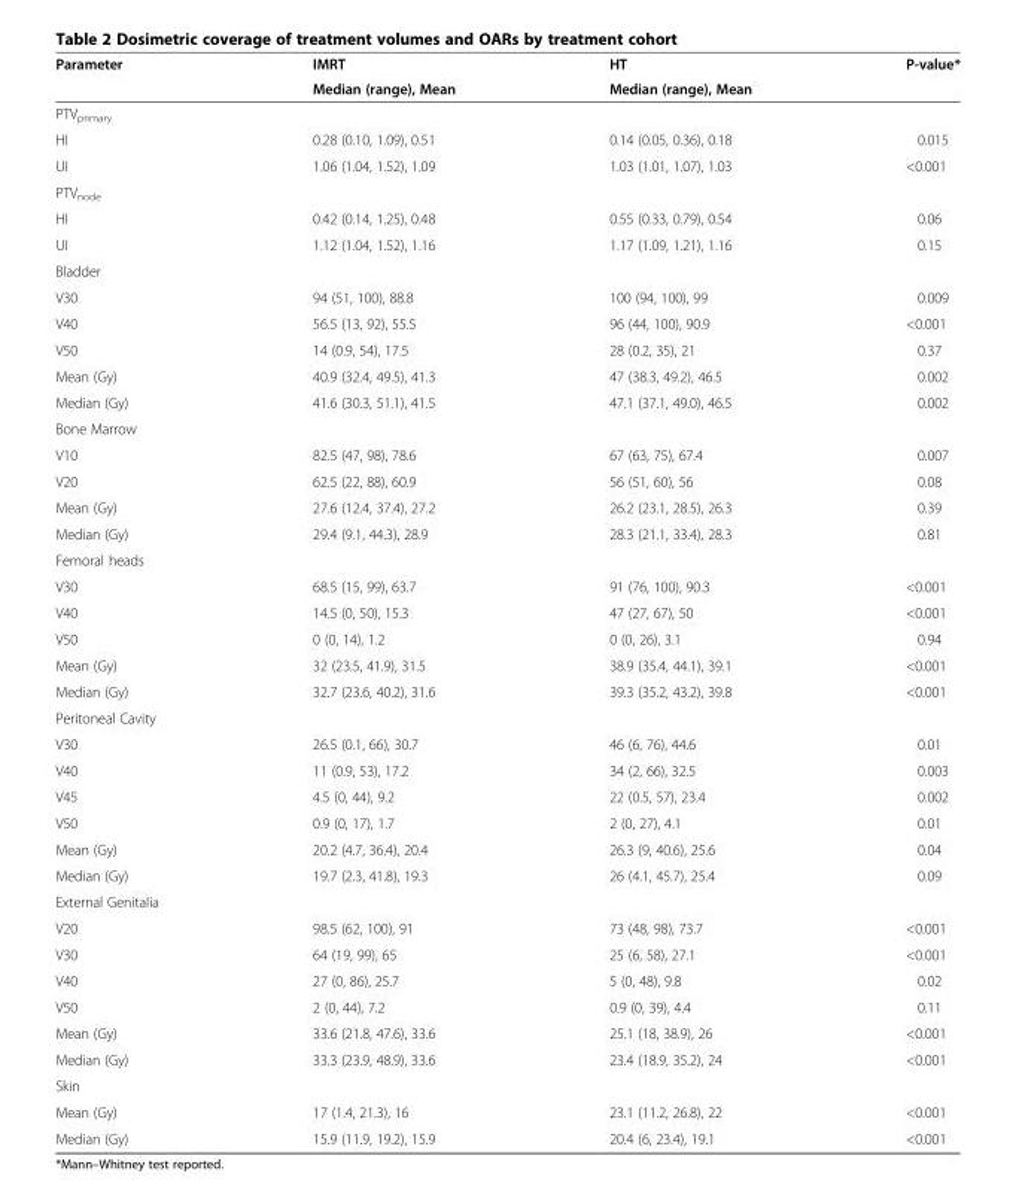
<table><thead><tr><td rowspan="2">Parameter</td><td rowspan="2">IMRT Median (range), Mean</td><td rowspan="2">HT Median (range), Mean</td><td rowspan="2">P-value*</td></tr><tr></tr></thead><tbody><tr><td colspan="4">PTV<sub>primary</sub></td></tr><tr><td>HI</td><td>0.28 (0.10, 1.09), 0.51</td><td>0.14 (0.05, 0.36), 0.18</td><td>0.015</td></tr><tr><td>UI</td><td>1.06 (1.04, 1.52), 1.09</td><td>1.03 (1.01, 1.07), 1.03</td><td>&lt;0.001</td></tr><tr><td colspan="4">PTV<sub>node</sub></td></tr><tr><td>HI</td><td>0.42 (0.14, 1.25), 0.48</td><td>0.55 (0.33, 0.79), 0.54</td><td>0.06</td></tr><tr><td>UI</td><td>1.12 (1.04, 1.52), 1.16</td><td>1.17 (1.09, 1.21), 1.16</td><td>0.15</td></tr><tr><td colspan="4">Bladder</td></tr><tr><td>V30</td><td>94 (51, 100), 88.8</td><td>100 (94, 100), 99</td><td>0.009</td></tr><tr><td>V40</td><td>56.5 (13, 92), 55.5</td><td>96 (44, 100), 90.9</td><td>&lt;0.001</td></tr><tr><td>V50</td><td>14 (0.9, 54), 17.5</td><td>28 (0.2, 35), 21</td><td>0.37</td></tr><tr><td>Mean (Gy)</td><td>40.9 (32.4, 49.5), 41.3</td><td>47 (38.3, 49.2), 46.5</td><td>0.002</td></tr><tr><td>Median (Gy)</td><td>41.6 (30.3, 51.1), 41.5</td><td>47.1 (37.1, 49.0), 46.5</td><td>0.002</td></tr><tr><td colspan="4">Bone Marrow</td></tr><tr><td>V10</td><td>82.5 (47, 98), 78.6</td><td>67 (63, 75), 67.4</td><td>0.007</td></tr><tr><td>V20</td><td>62.5 (22, 88), 60.9</td><td>56 (51, 60), 56</td><td>0.08</td></tr><tr><td>Mean (Gy)</td><td>27.6 (12.4, 37.4), 27.2</td><td>26.2 (23.1, 28.5), 26.3</td><td>0.39</td></tr><tr><td>Median (Gy)</td><td>29.4 (9.1, 44.3), 28.9</td><td>28.3 (21.1, 33.4), 28.3</td><td>0.81</td></tr><tr><td colspan="4">Femoral heads</td></tr><tr><td>V30</td><td>68.5 (15, 99), 63.7</td><td>91 (76, 100), 90.3</td><td>&lt;0.001</td></tr><tr><td>V40</td><td>14.5 (0, 50), 15.3</td><td>47 (27, 67), 50</td><td>&lt;0.001</td></tr><tr><td>V50</td><td>0 (0, 14), 1.2</td><td>0 (0, 26), 3.1</td><td>0.94</td></tr><tr><td>Mean (Gy)</td><td>32 (23.5, 41.9), 31.5</td><td>38.9 (35.4, 44.1), 39.1</td><td>&lt;0.001</td></tr><tr><td>Median (Gy)</td><td>32.7 (23.6, 40.2), 31.6</td><td>39.3 (35.2, 43.2), 39.8</td><td>&lt;0.001</td></tr><tr><td colspan="4">Peritoneal Cavity</td></tr><tr><td>V30</td><td>26.5 (0.1, 66), 30.7</td><td>46 (6, 76), 44.6</td><td>0.01</td></tr><tr><td>V40</td><td>11 (0.9, 53), 17.2</td><td>34 (2, 66), 32.5</td><td>0.003</td></tr><tr><td>V45</td><td>4.5 (0, 44), 9.2</td><td>22 (0.5, 57), 23.4</td><td>0.002</td></tr><tr><td>V50</td><td>0.9 (0, 17), 1.7</td><td>2 (0, 27), 4.1</td><td>0.01</td></tr><tr><td>Mean (Gy)</td><td>20.2 (4.7, 36.4), 20.4</td><td>26.3 (9, 40.6), 25.6</td><td>0.04</td></tr><tr><td>Median (Gy)</td><td>19.7 (2.3, 41.8), 19.3</td><td>26 (4.1, 45.7), 25.4</td><td>0.09</td></tr><tr><td colspan="4">External Genitalia</td></tr><tr><td>V20</td><td>98.5 (62, 100), 91</td><td>73 (48, 98), 73.7</td><td>&lt;0.001</td></tr><tr><td>V30</td><td>64 (19, 99), 65</td><td>25 (6, 58), 27.1</td><td>&lt;0.001</td></tr><tr><td>V40</td><td>27 (0, 86), 25.7</td><td>5 (0, 48), 9.8</td><td>0.02</td></tr><tr><td>V50</td><td>2 (0, 44), 7.2</td><td>0.9 (0, 39), 4.4</td><td>0.11</td></tr><tr><td>Mean (Gy)</td><td>33.6 (21.8, 47.6), 33.6</td><td>25.1 (18, 38.9), 26</td><td>&lt;0.001</td></tr><tr><td>Median (Gy)</td><td>33.3 (23.9, 48.9), 33.6</td><td>23.4 (18.9, 35.2), 24</td><td>&lt;0.001</td></tr><tr><td colspan="4">Skin</td></tr><tr><td>Mean (Gy)</td><td>17 (1.4, 21.3), 16</td><td>23.1 (11.2, 26.8), 22</td><td>&lt;0.001</td></tr><tr><td>Median (Gy)</td><td>15.9 (11.9, 19.2), 15.9</td><td>20.4 (6, 23.4), 19.1</td><td>&lt;0.001</td></tr></tbody></table>